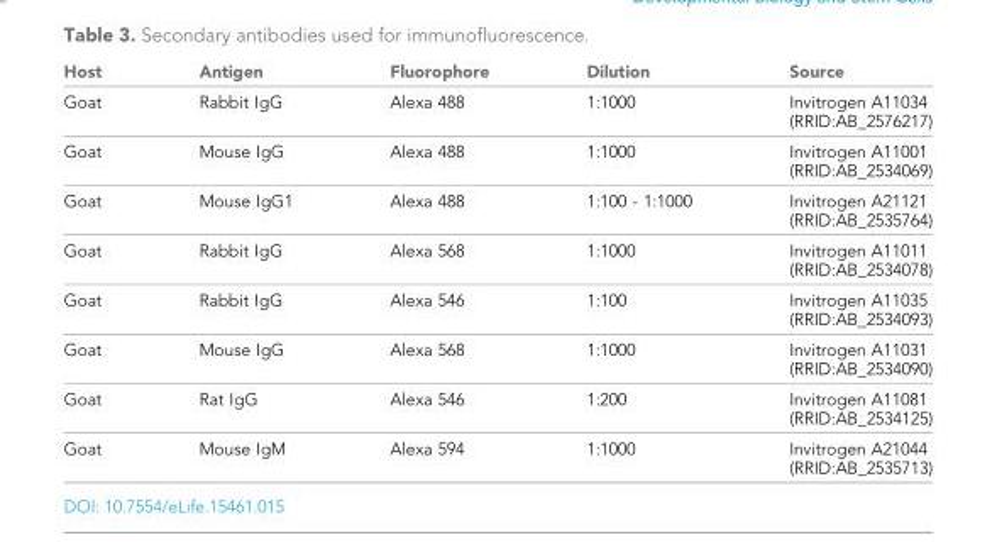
<table><thead><tr><td>Host</td><td>Antigen</td><td>Fluorophore</td><td>Dilution</td><td>Source</td></tr></thead><tbody><tr><td>Goat</td><td>Rabbit IgG</td><td>Alexa 488</td><td>1:1000</td><td>Invitrogen A11034 (RRID:AB_2576217)</td></tr><tr><td>Goat</td><td>Mouse IgG</td><td>Alexa 488</td><td>1:1000</td><td>Invitrogen A11001 (RRID:AB_2534069)</td></tr><tr><td>Goat</td><td>Mouse IgG1</td><td>Alexa 488</td><td>1:100 - 1:1000</td><td>Invitrogen A21121 (RRID:AB_2535764)</td></tr><tr><td>Goat</td><td>Rabbit IgG</td><td>Alexa 568</td><td>1:1000</td><td>Invitrogen A11011 (RRID:AB_2534078)</td></tr><tr><td>Goat</td><td>Rabbit IgG</td><td>Alexa 546</td><td>1:100</td><td>Invitrogen A11035 (RRID:AB_2534093)</td></tr><tr><td>Goat</td><td>Mouse IgG</td><td>Alexa 568</td><td>1:1000</td><td>Invitrogen A11031 (RRID:AB_2534090)</td></tr><tr><td>Goat</td><td>Rat IgG</td><td>Alexa 546</td><td>1:200</td><td>Invitrogen A11081 (RRID:AB_2534125)</td></tr><tr><td>Goat</td><td>Mouse IgM</td><td>Alexa 594</td><td>1:1000</td><td>Invitrogen A21044 (RRID:AB_2535713)</td></tr></tbody></table>